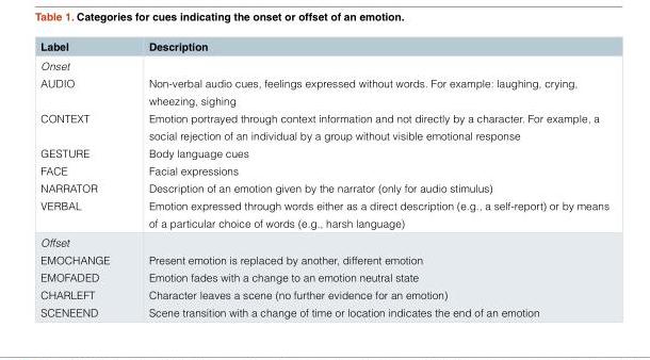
<table><thead><tr><td>Label</td><td>Description</td></tr></thead><tbody><tr><td>Onset AUDIO CONTEXT GESTURE FACE NARRATOR VERBAL</td><td>Non-verbal audio cues, feelings expressed without words. For example: laughing, crying, wheezing, sighing Emotion portrayed through context information and not directly by a character. For example, a social rejection of an individual by a group without visible emotional response Body language cues Facial expressions Description of an emotion given by the narrator (only for audio stimulus) Emotion expressed through words either as a direct description (e.g., a self-report) or by means of a particular choice of words (e.g., harsh language)</td></tr><tr><td>Offset EMOCHANGE EMOFADED CHARLEFT SCENEEND</td><td>Present emotion is replaced by another, different emotion Emotion fades with a change to an emotion neutral state Character leaves a scene (no further evidence for an emotion) Scene transition with a change of time or location indicates the end of an emotion</td></tr></tbody></table>